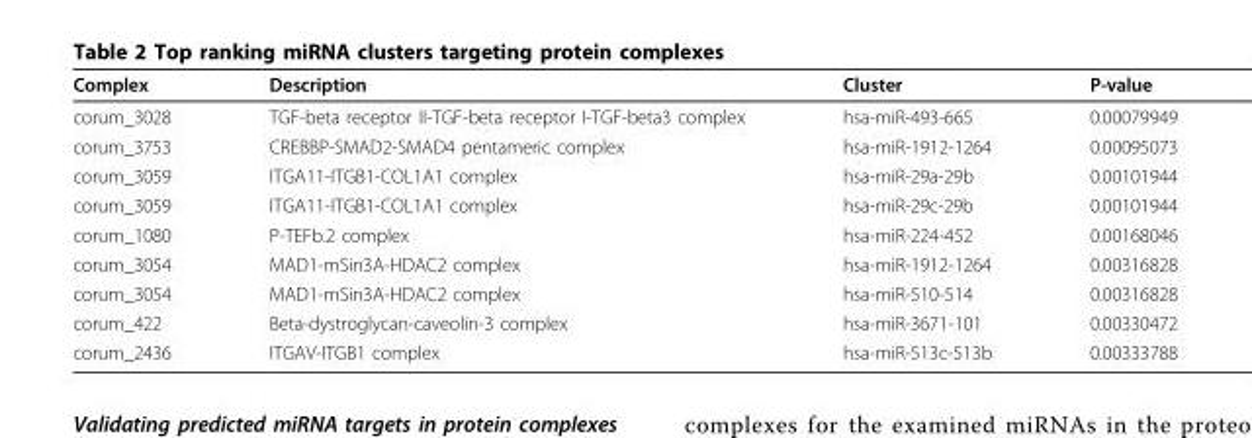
<table><thead><tr><td>Complex</td><td>Description</td><td>Cluster</td><td>P-value</td></tr></thead><tbody><tr><td>corum_3028</td><td>TGF-beta receptor II-TGF-beta receptor I-TGF-beta3 complex</td><td>hsa-miR-493-665</td><td>0.00079949</td></tr><tr><td>corum_3753</td><td>CREBBP-SMAD2-SMAD4 pentameric complex</td><td>hsa-miR-1912-1264</td><td>0.00095073</td></tr><tr><td>corum_3059</td><td>ITGA11-ITGB1-COL1A1 complex</td><td>hsa-miR-29a-29b</td><td>0.00101944</td></tr><tr><td>corum_3059</td><td>ITGA11-ITGB1-COL1A1 complex</td><td>hsa-miR-29c-29b</td><td>0.00101944</td></tr><tr><td>corum_1080</td><td>P-TEFb.2 complex</td><td>hsa-miR-224-452</td><td>0.00168046</td></tr><tr><td>corum_3054</td><td>MAD1-mSin3A-HDAC2 complex</td><td>hsa-miR-1912-1264</td><td>0.00316828</td></tr><tr><td>corum_3054</td><td>MAD1-mSin3A-HDAC2 complex</td><td>hsa-miR-510-514</td><td>0.00316828</td></tr><tr><td>corum_422</td><td>Beta-dystroglycan-caveolin-3 complex</td><td>hsa-miR-3671-101</td><td>0.00330472</td></tr><tr><td>corum_2436</td><td>ITGAV-ITGB1 complex</td><td>hsa-miR-513c-513b</td><td>0.00333788</td></tr></tbody></table>